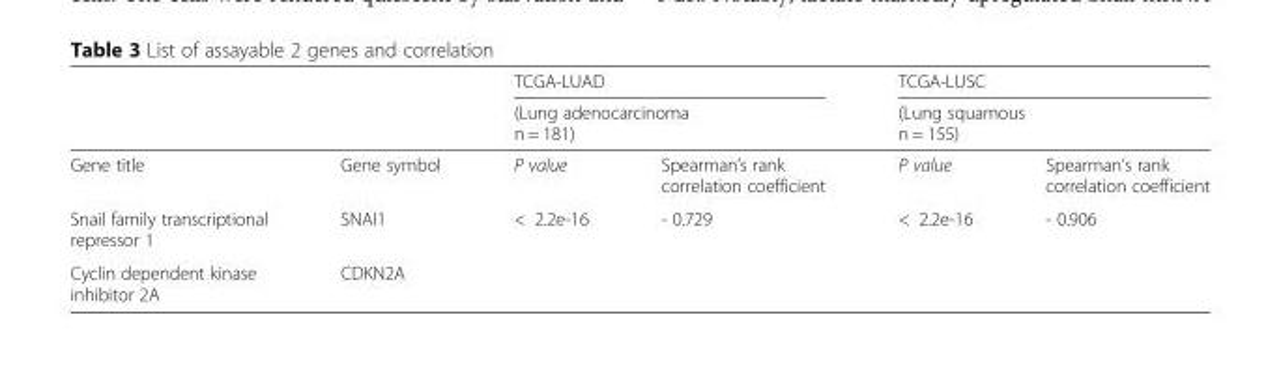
<table><thead><tr><td rowspan="3">Gene title</td><td rowspan="3">Gene symbol</td><td rowspan="2" colspan="2">TCGA-LUAD (Lung adenocarcinoma n = 181)</td><td rowspan="2" colspan="2">TCGA-LUSC (Lung squamous n = 155)</td></tr><tr></tr><tr><td>P value</td><td>Spearman’s rank correlation coefficient</td><td>P value</td><td>Spearman’s rank correlation coefficient</td></tr></thead><tbody><tr><td>Snail family transcriptional repressor 1</td><td>SNAI1</td><td>&lt; 2.2e-16</td><td>- 0.729</td><td>&lt; 2.2e-16</td><td>- 0.906</td></tr><tr><td>Cyclin dependent kinase inhibitor 2A</td><td>CDKN2A</td><td></td><td></td><td></td><td></td></tr></tbody></table>